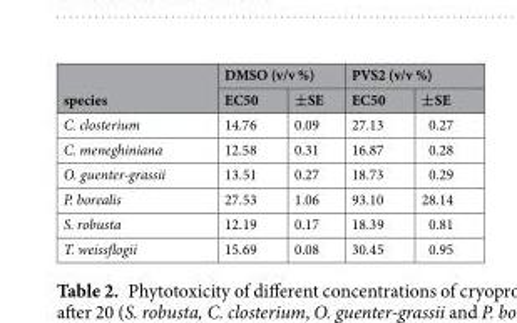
<table><thead><tr><td rowspan="2">species</td><td colspan="2">DMSO (v/v %)</td><td colspan="2">PVS2 (v/v %)</td></tr><tr><td>EC50</td><td>±SE</td><td>EC50</td><td>±SE</td></tr></thead><tbody><tr><td>C. closterium</td><td>14.76</td><td>0.09</td><td>27.13</td><td>0.27</td></tr><tr><td>C. meneghiniana</td><td>12.58</td><td>0.31</td><td>16.87</td><td>0.28</td></tr><tr><td>O. guenter-grassii</td><td>13.51</td><td>0.27</td><td>18.73</td><td>0.29</td></tr><tr><td>P. borealis</td><td>27.53</td><td>1.06</td><td>93.10</td><td>28.14</td></tr><tr><td>S. robusta</td><td>12.19</td><td>0.17</td><td>18.39</td><td>0.81</td></tr><tr><td>T. weissflogii</td><td>15.69</td><td>0.08</td><td>30.45</td><td>0.95</td></tr></tbody></table>